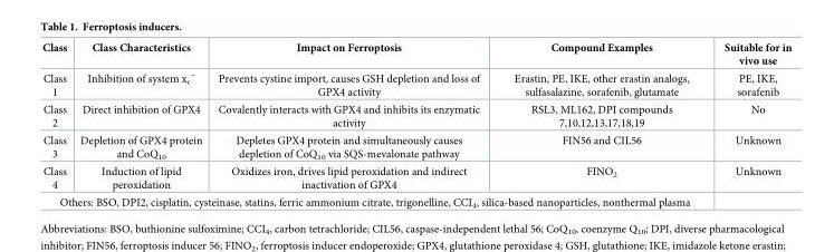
<table><thead><tr><td>Class</td><td>Class Characteristics</td><td>Impact on Ferroptosis</td><td>Compound Examples</td><td>Suitable for in vivo use</td></tr></thead><tbody><tr><td>Class 1</td><td>Inhibition of system x<sub>c</sub> <sup>−</sup></td><td>Prevents cystine import, causes GSH depletion and loss of GPX4 activity</td><td>Erastin, PE, IKE, other erastin analogs, sulfasalazine, sorafenib, glutamate</td><td>PE, IKE, sorafenib</td></tr><tr><td>Class 2</td><td>Direct inhibition of GPX4</td><td>Covalently interacts with GPX4 and inhibits its enzymatic activity</td><td>RSL3, ML162, DPI compounds 7,10,12,13,17,18,19</td><td>No</td></tr><tr><td>Class 3</td><td>Depletion of GPX4 protein and CoQ<sub>10</sub></td><td>Depletes GPX4 protein and simultaneously causes depletion of CoQ<sub>10</sub> via SQS-mevalonate pathway</td><td>FIN56 and CIL56</td><td>Unknown</td></tr><tr><td>Class 4</td><td>Induction of lipid peroxidation</td><td>Oxidizes iron, drives lipid peroxidation and indirect inactivation of GPX4</td><td>FINO<sub>2</sub></td><td>Unknown</td></tr><tr><td colspan="4">Others: BSO, DPI2, cisplatin, cysteinase, statins, ferric ammonium citrate, trigonelline, CCI<sub>4</sub>, silica-based nanoparticles, nonthermal plasma</td><td></td></tr></tbody></table>